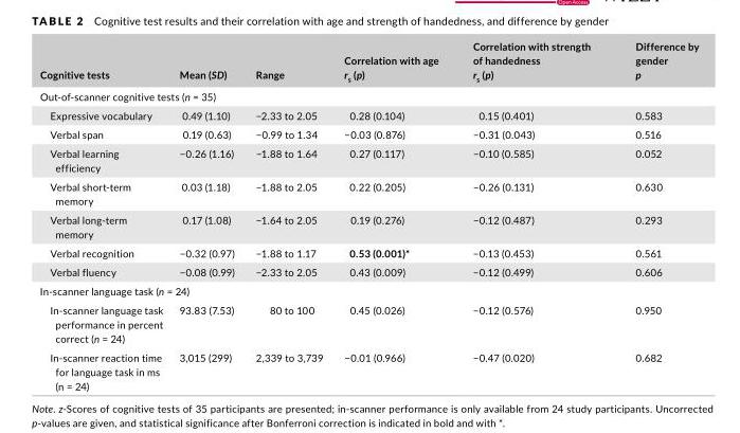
<table><thead><tr><td>Cognitive tests</td><td>Mean (SD)</td><td>Range</td><td>Correlation with age r<sub>s</sub> (p)</td><td>Correlation with strength of handedness r<sub>s</sub> (p)</td><td>Difference by gender p</td></tr></thead><tbody><tr><td colspan="6">Out- of- scanner cognitive tests (n = 35)</td></tr><tr><td>Expressive vocabulary</td><td>0.49 (1.10)</td><td>−2.33 to 2.05</td><td>0.28 (0.104)</td><td>0.15 (0.401)</td><td>0.583</td></tr><tr><td>Verbal span</td><td>0.19 (0.63)</td><td>−0.99 to 1.34</td><td>−0.03 (0.876)</td><td>−0.31 (0.043)</td><td>0.516</td></tr><tr><td>Verbal learning efficiency</td><td>−0.26 (1.16)</td><td>−1.88 to 1.64</td><td>0.27 (0.117)</td><td>−0.10 (0.585)</td><td>0.052</td></tr><tr><td>Verbal short- term memory</td><td>0.03 (1.18)</td><td>−1.88 to 2.05</td><td>0.22 (0.205)</td><td>−0.26 (0.131)</td><td>0.630</td></tr><tr><td>Verbal long- term memory</td><td>0.17 (1.08)</td><td>−1.64 to 2.05</td><td>0.19 (0.276)</td><td>−0.12 (0.487)</td><td>0.293</td></tr><tr><td>Verbal recognition</td><td>−0.32 (0.97)</td><td>−1.88 to 1.17</td><td>0.53 (0.001)*</td><td>−0.13 (0.453)</td><td>0.561</td></tr><tr><td>Verbal fluency</td><td>−0.08 (0.99)</td><td>−2.33 to 2.05</td><td>0.43 (0.009)</td><td>−0.12 (0.499)</td><td>0.606</td></tr><tr><td colspan="6">In- scanner language task (n = 24)</td></tr><tr><td>In- scanner language task performance in percent correct (n = 24)</td><td>93.83 (7.53)</td><td>80 to 100</td><td>0.45 (0.026)</td><td>−0.12 (0.576)</td><td>0.950</td></tr><tr><td>In- scanner reaction time for language task in ms (n = 24)</td><td>3,015 (299)</td><td>2,339 to 3,739</td><td>−0.01 (0.966)</td><td>−0.47 (0.020)</td><td>0.682</td></tr></tbody></table>